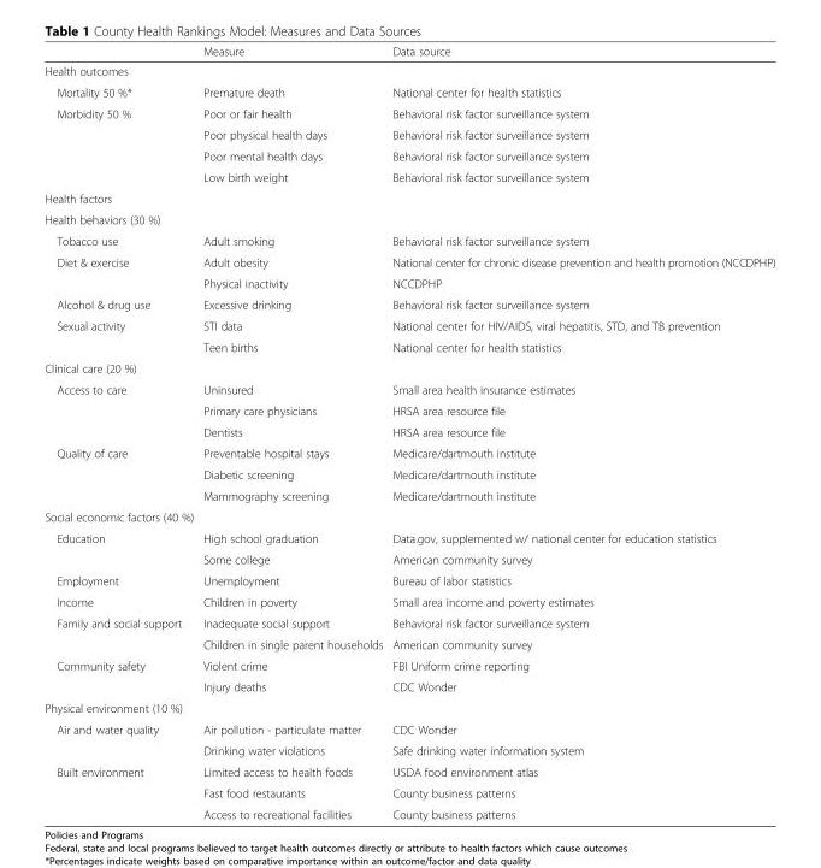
<table><thead><tr><td></td><td>Measure</td><td>Data source</td></tr></thead><tbody><tr><td colspan="3">Health outcomes</td></tr><tr><td>Mortality 50 %*</td><td>Premature death</td><td>National center for health statistics</td></tr><tr><td rowspan="4">Morbidity 50 %</td><td>Poor or fair health</td><td>Behavioral risk factor surveillance system</td></tr><tr><td>Poor physical health days</td><td>Behavioral risk factor surveillance system</td></tr><tr><td>Poor mental health days</td><td>Behavioral risk factor surveillance system</td></tr><tr><td>Low birth weight</td><td>Behavioral risk factor surveillance system</td></tr><tr><td colspan="3">Health factors</td></tr><tr><td colspan="3">Health behaviors (30 %)</td></tr><tr><td>Tobacco use</td><td>Adult smoking</td><td>Behavioral risk factor surveillance system</td></tr><tr><td rowspan="2">Diet &amp; exercise</td><td>Adult obesity</td><td>National center for chronic disease prevention and health promotion (NCCDPHP)</td></tr><tr><td>Physical inactivity</td><td>NCCDPHP</td></tr><tr><td>Alcohol &amp; drug use</td><td>Excessive drinking</td><td>Behavioral risk factor surveillance system</td></tr><tr><td rowspan="2">Sexual activity</td><td>STI data</td><td>National center for HIV/AIDS, viral hepatitis, STD, and TB prevention</td></tr><tr><td>Teen births</td><td>National center for health statistics</td></tr><tr><td colspan="3">Clinical care (20 %)</td></tr><tr><td rowspan="3">Access to care</td><td>Uninsured</td><td>Small area health insurance estimates</td></tr><tr><td>Primary care physicians</td><td>HRSA area resource file</td></tr><tr><td>Dentists</td><td>HRSA area resource file</td></tr><tr><td rowspan="3">Quality of care</td><td>Preventable hospital stays</td><td>Medicare/dartmouth institute</td></tr><tr><td>Diabetic screening</td><td>Medicare/dartmouth institute</td></tr><tr><td>Mammography screening</td><td>Medicare/dartmouth institute</td></tr><tr><td colspan="3">Social economic factors (40 %)</td></tr><tr><td rowspan="2">Education</td><td>High school graduation</td><td>Data.gov, supplemented w/ national center for education statistics</td></tr><tr><td>Some college</td><td>American community survey</td></tr><tr><td>Employment</td><td>Unemployment</td><td>Bureau of labor statistics</td></tr><tr><td>Income</td><td>Children in poverty</td><td>Small area income and poverty estimates</td></tr><tr><td rowspan="2">Family and social support</td><td>Inadequate social support</td><td>Behavioral risk factor surveillance system</td></tr><tr><td>Children in single parent households</td><td>American community survey</td></tr><tr><td rowspan="2">Community safety</td><td>Violent crime</td><td>FBI Uniform crime reporting</td></tr><tr><td>Injury deaths</td><td>CDC Wonder</td></tr><tr><td colspan="3">Physical environment (10 %)</td></tr><tr><td rowspan="2">Air and water quality</td><td>Air pollution - particulate matter</td><td>CDC Wonder</td></tr><tr><td>Drinking water violations</td><td>Safe drinking water information system</td></tr><tr><td rowspan="3">Built environment</td><td>Limited access to health foods</td><td>USDA food environment atlas</td></tr><tr><td>Fast food restaurants</td><td>County business patterns</td></tr><tr><td>Access to recreational facilities</td><td>County business patterns</td></tr></tbody></table>